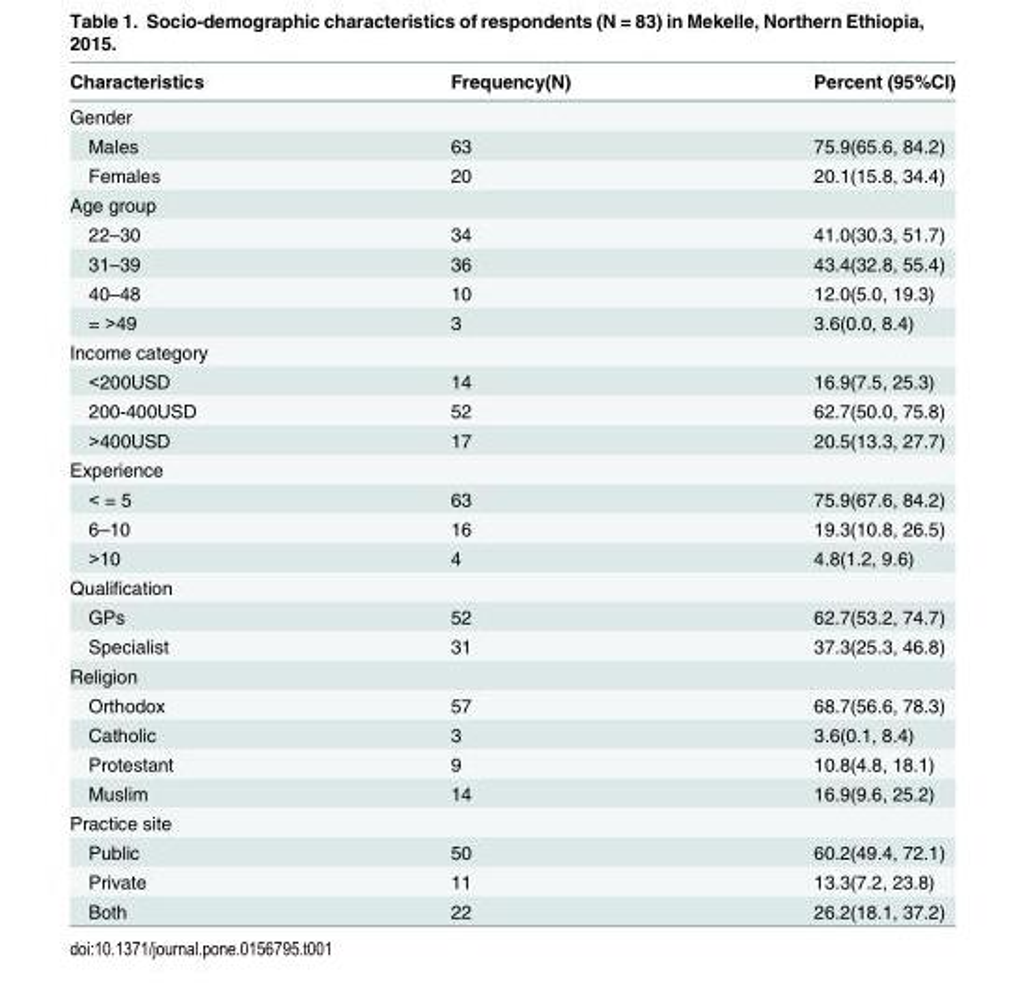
<table><thead><tr><td>Characteristics</td><td>Frequency(N)</td><td>Percent (95%CI)</td></tr></thead><tbody><tr><td colspan="3">Gender</td></tr><tr><td>Males</td><td>63</td><td>75.9(65.6, 84.2)</td></tr><tr><td>Females</td><td>20</td><td>20.1(15.8, 34.4)</td></tr><tr><td colspan="3">Age group</td></tr><tr><td>22–30</td><td>34</td><td>41.0(30.3, 51.7)</td></tr><tr><td>31–39</td><td>36</td><td>43.4(32.8, 55.4)</td></tr><tr><td>40–48</td><td>10</td><td>12.0(5.0, 19.3)</td></tr><tr><td>= &gt;49</td><td>3</td><td>3.6(0.0, 8.4)</td></tr><tr><td colspan="3">Income category</td></tr><tr><td>&lt;200USD</td><td>14</td><td>16.9(7.5, 25.3)</td></tr><tr><td>200-400USD</td><td>52</td><td>62.7(50.0, 75.8)</td></tr><tr><td>&gt;400USD</td><td>17</td><td>20.5(13.3, 27.7)</td></tr><tr><td colspan="3">Experience</td></tr><tr><td>&lt; = 5</td><td>63</td><td>75.9(67.6, 84.2)</td></tr><tr><td>6–10</td><td>16</td><td>19.3(10.8, 26.5)</td></tr><tr><td>&gt;10</td><td>4</td><td>4.8(1.2, 9.6)</td></tr><tr><td colspan="3">Qualification</td></tr><tr><td>GPs</td><td>52</td><td>62.7(53.2, 74.7)</td></tr><tr><td>Specialist</td><td>31</td><td>37.3(25.3, 46.8)</td></tr><tr><td colspan="3">Religion</td></tr><tr><td>Orthodox</td><td>57</td><td>68.7(56.6, 78.3)</td></tr><tr><td>Catholic</td><td>3</td><td>3.6(0.1, 8.4)</td></tr><tr><td>Protestant</td><td>9</td><td>10.8(4.8, 18.1)</td></tr><tr><td>Muslim</td><td>14</td><td>16.9(9.6, 25.2)</td></tr><tr><td colspan="3">Practice site</td></tr><tr><td>Public</td><td>50</td><td>60.2(49.4, 72.1)</td></tr><tr><td>Private</td><td>11</td><td>13.3(7.2, 23.8)</td></tr><tr><td>Both</td><td>22</td><td>26.2(18.1, 37.2)</td></tr></tbody></table>